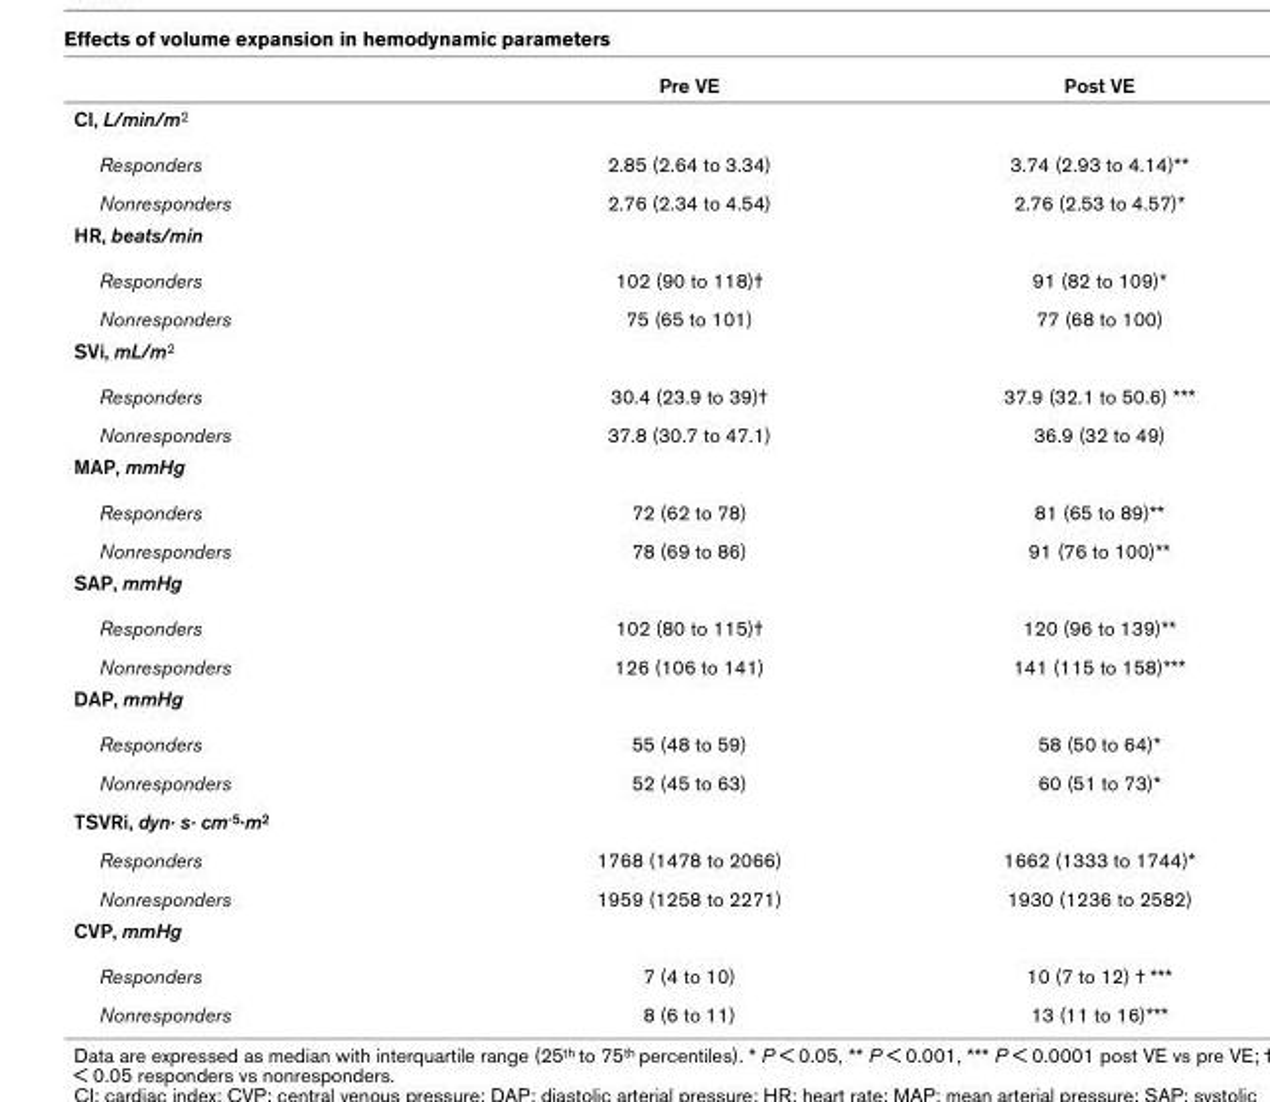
<table><thead><tr><td></td><td>Pre VE</td><td>Post VE</td></tr></thead><tbody><tr><td colspan="3">CI, L/min/m<sup>2</sup></td></tr><tr><td>Responders</td><td>2.85 (2.64 to 3.34)</td><td>3.74 (2.93 to 4.14)**</td></tr><tr><td>Nonresponders</td><td>2.76 (2.34 to 4.54)</td><td>2.76 (2.53 to 4.57)*</td></tr><tr><td colspan="3">HR, beats/min</td></tr><tr><td>Responders</td><td>102 (90 to 118)†</td><td>91 (82 to 109)*</td></tr><tr><td>Nonresponders</td><td>75 (65 to 101)</td><td>77 (68 to 100)</td></tr><tr><td colspan="3">SVi, mL/m<sup>2</sup></td></tr><tr><td>Responders</td><td>30.4 (23.9 to 39)†</td><td>37.9 (32.1 to 50.6) ***</td></tr><tr><td>Nonresponders</td><td>37.8 (30.7 to 47.1)</td><td>36.9 (32 to 49)</td></tr><tr><td colspan="3">MAP, mmHg</td></tr><tr><td>Responders</td><td>72 (62 to 78)</td><td>81 (65 to 89)**</td></tr><tr><td>Nonresponders</td><td>78 (69 to 86)</td><td>91 (76 to 100)**</td></tr><tr><td colspan="3">SAP, mmHg</td></tr><tr><td>Responders</td><td>102 (80 to 115)†</td><td>120 (96 to 139)**</td></tr><tr><td>Nonresponders</td><td>126 (106 to 141)</td><td>141 (115 to 158)***</td></tr><tr><td colspan="3">DAP, mmHg</td></tr><tr><td>Responders</td><td>55 (48 to 59)</td><td>58 (50 to 64)*</td></tr><tr><td>Nonresponders</td><td>52 (45 to 63)</td><td>60 (51 to 73)*</td></tr><tr><td colspan="3">TSVRi, dyn· s· cm<sup>-5</sup>·m<sup>2</sup></td></tr><tr><td>Responders</td><td>1768 (1478 to 2066)</td><td>1662 (1333 to 1744)*</td></tr><tr><td>Nonresponders</td><td>1959 (1258 to 2271)</td><td>1930 (1236 to 2582)</td></tr><tr><td colspan="3">CVP, mmHg</td></tr><tr><td>Responders</td><td>7 (4 to 10)</td><td>10 (7 to 12) † ***</td></tr><tr><td>Nonresponders</td><td>8 (6 to 11)</td><td>13 (11 to 16)***</td></tr></tbody></table>